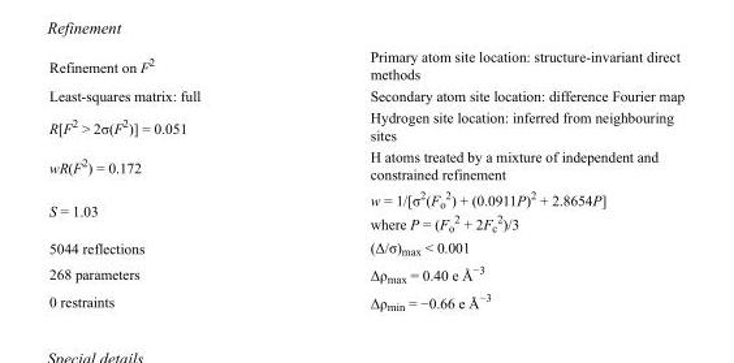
<table><tbody><tr><td>Refinement on F<sup>2</sup></td><td>Primary atom site location: structure-invariant direct methods</td></tr><tr><td>Least-squares matrix: full</td><td>Secondary atom site location: difference Fourier map</td></tr><tr><td>R[F<sup>2</sup> &gt; 2σ(F<sup>2</sup>)] = 0.051</td><td>Hydrogen site location: inferred from neighbouring sites</td></tr><tr><td>wR(F<sup>2</sup>) = 0.172</td><td>H atoms treated by a mixture of independent and constrained refinement</td></tr><tr><td>S = 1.03</td><td>w = 1/[σ<sup>2</sup>(F<sub>o</sub> <sup>2</sup>) + (0.0911P)<sup>2</sup> + 2.8654P] where P = (F<sub>o</sub> <sup>2</sup> + 2F<sub>c</sub> <sup>2</sup>)/3</td></tr><tr><td>5044 reflections</td><td>(Δ/σ)<sub>max</sub> &lt; 0.001</td></tr><tr><td>268 parameters</td><td>Δρ<sub>max</sub> = 0.40 e Å<sup>−3</sup></td></tr><tr><td>0 restraints</td><td>Δρ<sub>min</sub> = −0.66 e Å<sup>−3</sup></td></tr></tbody></table>